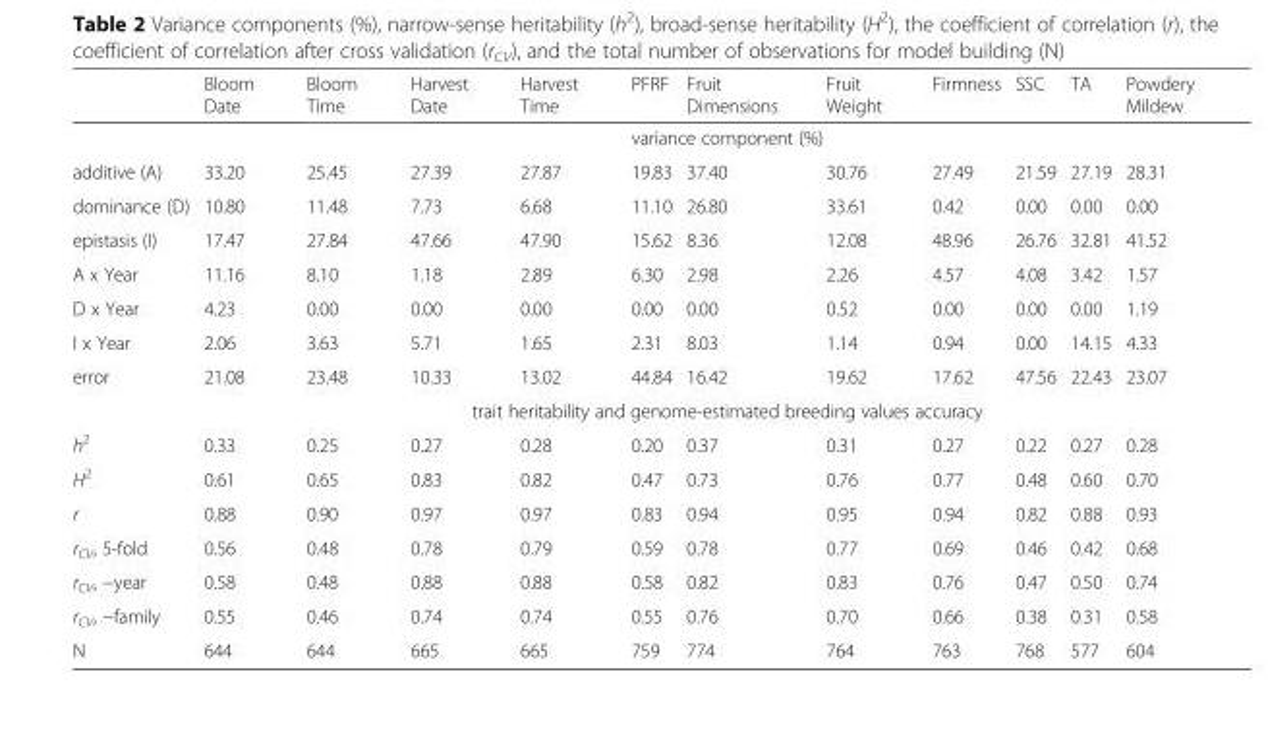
<table><thead><tr><td></td><td>Bloom Date</td><td>Bloom Time</td><td>Harvest Date</td><td>Harvest Time</td><td>PFRF</td><td>Fruit Dimensions</td><td>Fruit Weight</td><td>Firmness</td><td>SSC</td><td>TA</td><td>Powdery Mildew</td></tr></thead><tbody><tr><td></td><td colspan="11">variance component (%)</td></tr><tr><td>additive (A)</td><td>33.20</td><td>25.45</td><td>27.39</td><td>27.87</td><td>19.83</td><td>37.40</td><td>30.76</td><td>27.49</td><td>21.59</td><td>27.19</td><td>28.31</td></tr><tr><td>dominance (D)</td><td>10.80</td><td>11.48</td><td>7.73</td><td>6.68</td><td>11.10</td><td>26.80</td><td>33.61</td><td>0.42</td><td>0.00</td><td>0.00</td><td>0.00</td></tr><tr><td>epistasis (I)</td><td>17.47</td><td>27.84</td><td>47.66</td><td>47.90</td><td>15.62</td><td>8.36</td><td>12.08</td><td>48.96</td><td>26.76</td><td>32.81</td><td>41.52</td></tr><tr><td>A x Year</td><td>11.16</td><td>8.10</td><td>1.18</td><td>2.89</td><td>6.30</td><td>2.98</td><td>2.26</td><td>4.57</td><td>4.08</td><td>3.42</td><td>1.57</td></tr><tr><td>D x Year</td><td>4.23</td><td>0.00</td><td>0.00</td><td>0.00</td><td>0.00</td><td>0.00</td><td>0.52</td><td>0.00</td><td>0.00</td><td>0.00</td><td>1.19</td></tr><tr><td>I x Year</td><td>2.06</td><td>3.63</td><td>5.71</td><td>1.65</td><td>2.31</td><td>8.03</td><td>1.14</td><td>0.94</td><td>0.00</td><td>14.15</td><td>4.33</td></tr><tr><td rowspan="2">error</td><td>21.08</td><td>23.48</td><td>10.33</td><td>13.02</td><td>44.84</td><td>16.42</td><td>19.62</td><td>17.62</td><td>47.56</td><td>22.43</td><td>23.07</td></tr><tr><td colspan="11">trait heritability and genome-estimated breeding values accuracy</td></tr><tr><td>h<sup>2</sup></td><td>0.33</td><td>0.25</td><td>0.27</td><td>0.28</td><td>0.20</td><td>0.37</td><td>0.31</td><td>0.27</td><td>0.22</td><td>0.27</td><td>0.28</td></tr><tr><td>H<sup>2</sup></td><td>0.61</td><td>0.65</td><td>0.83</td><td>0.82</td><td>0.47</td><td>0.73</td><td>0.76</td><td>0.77</td><td>0.48</td><td>0.60</td><td>0.70</td></tr><tr><td>r</td><td>0.88</td><td>0.90</td><td>0.97</td><td>0.97</td><td>0.83</td><td>0.94</td><td>0.95</td><td>0.94</td><td>0.82</td><td>0.88</td><td>0.93</td></tr><tr><td>r<sub>CV</sub>, 5-fold</td><td>0.56</td><td>0.48</td><td>0.78</td><td>0.79</td><td>0.59</td><td>0.78</td><td>0.77</td><td>0.69</td><td>0.46</td><td>0.42</td><td>0.68</td></tr><tr><td>r<sub>CV</sub>, −year</td><td>0.58</td><td>0.48</td><td>0.88</td><td>0.88</td><td>0.58</td><td>0.82</td><td>0.83</td><td>0.76</td><td>0.47</td><td>0.50</td><td>0.74</td></tr><tr><td>r<sub>CV</sub>, −family</td><td>0.55</td><td>0.46</td><td>0.74</td><td>0.74</td><td>0.55</td><td>0.76</td><td>0.70</td><td>0.66</td><td>0.38</td><td>0.31</td><td>0.58</td></tr><tr><td>N</td><td>644</td><td>644</td><td>665</td><td>665</td><td>759</td><td>774</td><td>764</td><td>763</td><td>768</td><td>577</td><td>604</td></tr></tbody></table>